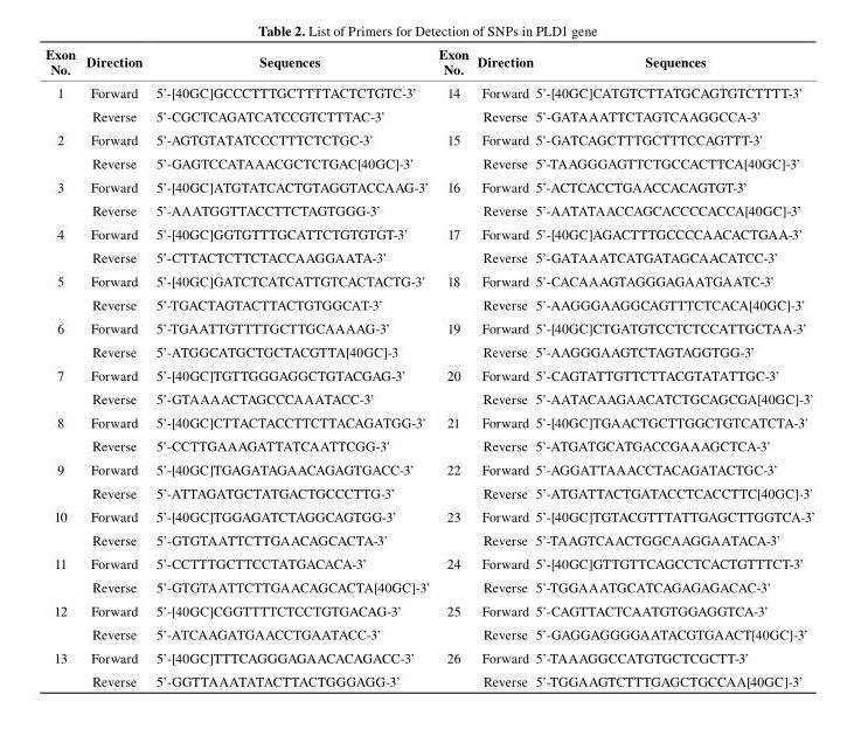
<table><thead><tr><td>Exon No.</td><td>Direction</td><td>sequences</td><td>Exon No.</td><td>Direction</td><td>sequences</td></tr></thead><tbody><tr><td rowspan="2">1</td><td>Forward</td><td>5’-[40GC]GCCCTTTGCTTTTACTCTGTC-3’</td><td>14</td><td>Forward</td><td>5’-[40GC]CATGTCTTATGCAGTGTCTTTT-3’</td></tr><tr><td>Reverse</td><td>5’-CGCTCAGATCATCCGTCTTTAC-3’</td><td></td><td>Reverse</td><td>5’-GATAAATTCTAGTCAAGGCCA-3’</td></tr><tr><td rowspan="2">2</td><td>Forward</td><td>5’-AGTGTATATCCCTTTCTCTGC-3’</td><td>15</td><td>Forward</td><td>5’-GATCAGCTTTGCTTTCCAGTTT-3’</td></tr><tr><td>Reverse</td><td>5’-GAGTCCATAAACGCTCTGAC[40GC]-3’</td><td></td><td>Reverse</td><td>5’-TAAGGGAGTTCTGCCACTTCA[40GC]-3’</td></tr><tr><td rowspan="2">3</td><td>Forward</td><td>5’-[40GC]ATGTATCACTGTAGGTACCAAG-3’</td><td>16</td><td>Forward</td><td>5’-ACTCACCTGAACCACAGTGT-3’</td></tr><tr><td>Reverse</td><td>5’-AAATGGTTACCTTCTAGTGGG-3’</td><td></td><td>Reverse</td><td>5’-AATATAACCAGCACCCCACCA[40GC]-3’</td></tr><tr><td rowspan="2">4</td><td>Forward</td><td>5’-[40GC]GGTGTTTGCATTCTGTGTGT-3’</td><td>17</td><td>Forward</td><td>5’-[40GC]AGACTTTGCCCCAACACTGAA-3’</td></tr><tr><td>Reverse</td><td>5’-CTTACTCTTCTACCAAGGAATA-3’</td><td></td><td>Reverse</td><td>5’-GATAAATCATGATAGCAACATCC-3’</td></tr><tr><td rowspan="2">5</td><td>Forward</td><td>5’-[40GC]GATCTCATCATTGTCACTACTG-3’</td><td>18</td><td>Forward</td><td>5’-CACAAAGTAGGGAGAATGAATC-3’</td></tr><tr><td>Reverse</td><td>5’-TGACTAGTACTTACTGTGGCAT-3’</td><td></td><td>Reverse</td><td>5’-AAGGGAAGGCAGTTTCTCACA[40GC]-3’</td></tr><tr><td rowspan="2">6</td><td>Forward</td><td>5’-TGAATTGTTTTGCTTGCAAAAG-3’</td><td>19</td><td>Forward</td><td>5’-[40GC]CTGATGTCCTCTCCATTGCTAA-3’</td></tr><tr><td>Reverse</td><td>5’-ATGGCATGCTGCTACGTTA[40GC]-3</td><td></td><td>Reverse</td><td>5’-AAGGGAAGTCTAGTAGGTGG-3’</td></tr><tr><td rowspan="2">7</td><td>Forward</td><td>5’-[40GC]TGTTGGGAGGCTGTACGAG-3’</td><td>20</td><td>Forward</td><td>5’-CAGTATTGTTCTTACGTATATTGC-3’</td></tr><tr><td>Reverse</td><td>5’-GTAAAACTAGCCCAAATACC-3’</td><td></td><td>Reverse</td><td>5’-AATACAAGAACATCTGCAGCGA[40GC]-3’</td></tr><tr><td rowspan="2">8</td><td>Forward</td><td>5’-[40GC]CTTACTACCTTCTTACAGATGG-3’</td><td>21</td><td>Forward</td><td>5’-[40GC]TGAACTGCTTGGCTGTCATCTA-3’</td></tr><tr><td>Reverse</td><td>5’-CCTTGAAAGATTATCAATTCGG-3’</td><td></td><td>Reverse</td><td>5’-ATGATGCATGACCGAAAGCTCA-3’</td></tr><tr><td rowspan="2">9</td><td>Forward</td><td>5’-[40GC]TGAGATAGAACAGAGTGACC-3’</td><td>22</td><td>Forward</td><td>5’-AGGATTAAACCTACAGATACTGC-3’</td></tr><tr><td>Reverse</td><td>5’-ATTAGATGCTATGACTGCCCTTG-3’</td><td></td><td>Reverse</td><td>5’-ATGATTACTGATACCTCACCTTC[40GC]-3’</td></tr><tr><td rowspan="2">10</td><td>Forward</td><td>5’-[40GC]TGGAGATCTAGGCAGTGG-3’</td><td>23</td><td>Forward</td><td>5’-[40GC]TGTACGTTTATTGAGCTTGGTCA-3’</td></tr><tr><td>Reverse</td><td>5’-GTGTAATTCTTGAACAGCACTA-3’</td><td></td><td>Reverse</td><td>5’-TAAGTCAACTGGCAAGGAATACA-3’</td></tr><tr><td rowspan="2">11</td><td>Forward</td><td>5’-CCTTTGCTTCCTATGACACA-3’</td><td>24</td><td>Forward</td><td>5’-[40GC]GTTGTTCAGCCTCACTGTTTCT-3’</td></tr><tr><td>Reverse</td><td>5’-GTGTAATTCTTGAACAGCACTA[40GC]-3’</td><td></td><td>Reverse</td><td>5’-TGGAAATGCATCAGAGAGACAC-3’</td></tr><tr><td rowspan="2">12</td><td>Forward</td><td>5’-[40GC]CGGTTTTCTCCTGTGACAG-3’</td><td>25</td><td>Forward</td><td>5’-CAGTTACTCAATGTGGAGGTCA-3’</td></tr><tr><td>Reverse</td><td>5’-ATCAAGATGAACCTGAATACC-3’</td><td></td><td>Reverse</td><td>5’-GAGGAGGGGAATACGTGAACT[40GC]-3’</td></tr><tr><td rowspan="2">13</td><td>Forward</td><td>5’-[40GC]TTTCAGGGAGAACACAGACC-3’</td><td>26</td><td>Forward</td><td>5’-TAAAGGCCATGTGCTCGCTT-3’</td></tr><tr><td>Reverse</td><td>5’-GGTTAAATATACTTACTGGGAGG-3’</td><td></td><td>Reverse</td><td>5’-TGGAAGTCTTTGAGCTGCCAA[40GC]-3’</td></tr></tbody></table>